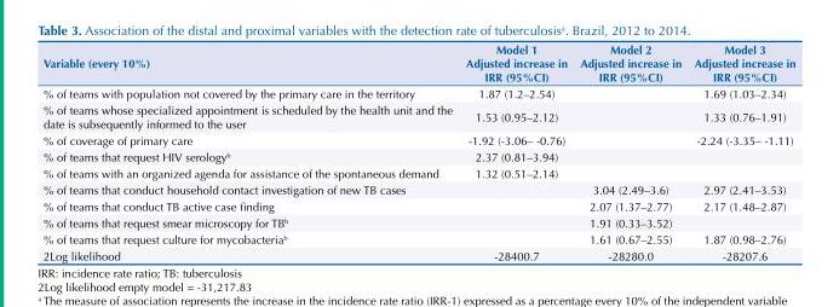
<table><thead><tr><td>Variable (every 10%)</td><td>Model 1 Adjusted increase in IRR (95%CI)</td><td>Model 2 Adjusted increase in IRR (95%CI)</td><td>Model 3 Adjusted increase in IRR (95%CI)</td></tr></thead><tbody><tr><td>% of teams with population not covered by the primary care in the territory</td><td>1.87 (1.2–2.54)</td><td></td><td>1.69 (1.03–2.34)</td></tr><tr><td>% of teams whose specialized appointment is scheduled by the health unit and the date is subsequently informed to the user</td><td>1.53 (0.95–2.12)</td><td></td><td>1.33 (0.76–1.91)</td></tr><tr><td>% of coverage of primary care</td><td>-1.92 (-3.06– -0.76)</td><td></td><td>-2.24 (-3.35– -1.11)</td></tr><tr><td>% of teams that request HIV serology<sup>b</sup></td><td>2.37 (0.81–3.94)</td><td></td><td></td></tr><tr><td>% of teams with an organized agenda for assistance of the spontaneous demand</td><td>1.32 (0.51–2.14)</td><td></td><td></td></tr><tr><td>% of teams that conduct household contact investigation of new TB cases</td><td></td><td>3.04 (2.49–3.6)</td><td>2.97 (2.41–3.53)</td></tr><tr><td>% of teams that conduct TB active case finding</td><td></td><td>2.07 (1.37–2.77)</td><td>2.17 (1.48–2.87)</td></tr><tr><td>% of teams that request smear microscopy for TB<sup>b</sup></td><td></td><td>1.91 (0.33–3.52)</td><td></td></tr><tr><td>% of teams that request culture for mycobacteria<sup>b</sup></td><td></td><td>1.61 (0.67–2.55)</td><td>1.87 (0.98–2.76)</td></tr><tr><td>2Log likelihood</td><td>-28400.7</td><td>-28280.0</td><td>-28207.6</td></tr></tbody></table>